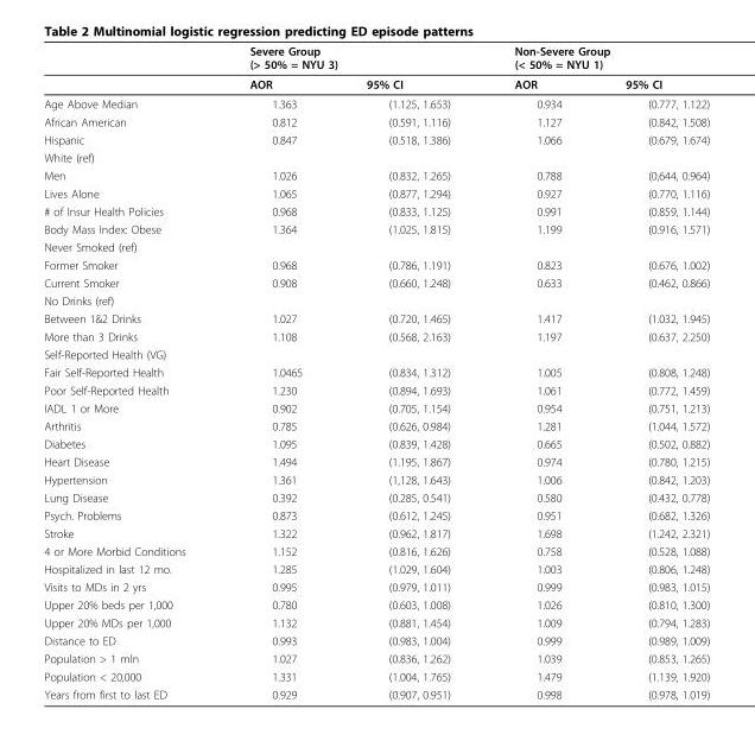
<table><thead><tr><td rowspan="2"></td><td colspan="2">Severe Group (&gt; 50% = NYU 3)</td><td colspan="2">Non-Severe Group (&lt; 50% = NYU 1)</td></tr><tr><td>AOR</td><td>95% CI</td><td>AOR</td><td>95% CI</td></tr></thead><tbody><tr><td>Age Above Median</td><td>1.363</td><td>(1.125, 1.653)</td><td>0.934</td><td>(0.777, 1.122)</td></tr><tr><td>African American</td><td>0.812</td><td>(0.591, 1.116)</td><td>1.127</td><td>(0.842, 1.508)</td></tr><tr><td>Hispanic</td><td>0.847</td><td>(0.518, 1.386)</td><td>1.066</td><td>(0.679, 1.674)</td></tr><tr><td colspan="5">White (ref)</td></tr><tr><td>Men</td><td>1.026</td><td>(0.832, 1.265)</td><td>0.788</td><td>(0,644, 0.964)</td></tr><tr><td>Lives Alone</td><td>1.065</td><td>(0.877, 1.294)</td><td>0.927</td><td>(0.770, 1.116)</td></tr><tr><td># of Insur Health Policies</td><td>0.968</td><td>(0.833, 1.125)</td><td>0.991</td><td>(0.859, 1.144)</td></tr><tr><td>Body Mass Index: Obese</td><td>1.364</td><td>(1.025, 1.815)</td><td>1.199</td><td>(0.916, 1.571)</td></tr><tr><td colspan="5">Never Smoked (ref)</td></tr><tr><td>Former Smoker</td><td>0.968</td><td>(0.786, 1.191)</td><td>0.823</td><td>(0.676, 1.002)</td></tr><tr><td>Current Smoker</td><td>0.908</td><td>(0.660, 1.248)</td><td>0.633</td><td>(0.462, 0.866)</td></tr><tr><td colspan="5">No Drinks (ref)</td></tr><tr><td>Between 1&amp;2 Drinks</td><td>1.027</td><td>(0.720, 1.465)</td><td>1.417</td><td>(1.032, 1.945)</td></tr><tr><td>More than 3 Drinks</td><td>1.108</td><td>(0.568, 2.163)</td><td>1.197</td><td>(0.637, 2.250)</td></tr><tr><td colspan="5">Self-Reported Health (VG)</td></tr><tr><td>Fair Self-Reported Health</td><td>1.0465</td><td>(0.834, 1.312)</td><td>1.005</td><td>(0.808, 1.248)</td></tr><tr><td>Poor Self-Reported Health</td><td>1.230</td><td>(0.894, 1.693)</td><td>1.061</td><td>(0.772, 1.459)</td></tr><tr><td>IADL 1 or More</td><td>0.902</td><td>(0.705, 1.154)</td><td>0.954</td><td>(0.751, 1.213)</td></tr><tr><td>Arthritis</td><td>0.785</td><td>(0.626, 0.984)</td><td>1.281</td><td>(1.044, 1.572)</td></tr><tr><td>Diabetes</td><td>1.095</td><td>(0.839, 1.428)</td><td>0.665</td><td>(0.502, 0.882)</td></tr><tr><td>Heart Disease</td><td>1.494</td><td>(1.195, 1.867)</td><td>0.974</td><td>(0.780, 1.215)</td></tr><tr><td>Hypertension</td><td>1.361</td><td>(1,128, 1.643)</td><td>1.006</td><td>(0.842, 1.203)</td></tr><tr><td>Lung Disease</td><td>0.392</td><td>(0.285, 0.541)</td><td>0.580</td><td>(0.432, 0.778)</td></tr><tr><td>Psych. Problems</td><td>0.873</td><td>(0.612, 1.245)</td><td>0.951</td><td>(0.682, 1.326)</td></tr><tr><td>Stroke</td><td>1.322</td><td>(0.962, 1.817)</td><td>1.698</td><td>(1.242, 2.321)</td></tr><tr><td>4 or More Morbid Conditions</td><td>1.152</td><td>(0.816, 1.626)</td><td>0.758</td><td>(0.528, 1.088)</td></tr><tr><td>Hospitalized in last 12 mo.</td><td>1.285</td><td>(1.029, 1.604)</td><td>1.003</td><td>(0.806, 1.248)</td></tr><tr><td>Visits to MDs in 2 yrs</td><td>0.995</td><td>(0.979, 1.011)</td><td>0.999</td><td>(0.983, 1.015)</td></tr><tr><td>Upper 20% beds per 1,000</td><td>0.780</td><td>(0.603, 1.008)</td><td>1.026</td><td>(0.810, 1.300)</td></tr><tr><td>Upper 20% MDs per 1,000</td><td>1.132</td><td>(0.881, 1.454)</td><td>1.009</td><td>(0.794, 1.283)</td></tr><tr><td>Distance to ED</td><td>0.993</td><td>(0.983, 1.004)</td><td>0.999</td><td>(0.989, 1.009)</td></tr><tr><td>Population &gt; 1 mln</td><td>1.027</td><td>(0.836, 1.262)</td><td>1.039</td><td>(0.853, 1.265)</td></tr><tr><td>Population &lt; 20,000</td><td>1.331</td><td>(1.004, 1.765)</td><td>1.479</td><td>(1.139, 1.920)</td></tr><tr><td>Years from first to last ED</td><td>0.929</td><td>(0.907, 0.951)</td><td>0.998</td><td>(0.978, 1.019)</td></tr></tbody></table>